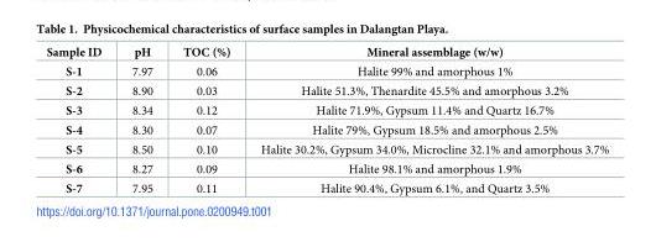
<table><thead><tr><td>Sample ID</td><td>pH</td><td>TOC (%)</td><td>Mineral assemblage (w/w)</td></tr></thead><tbody><tr><td>S-1</td><td>7.97</td><td>0.06</td><td>Halite 99% and amorphous 1%</td></tr><tr><td>S-2</td><td>8.90</td><td>0.03</td><td>Halite 51.3%, Thenardite 45.5% and amorphous 3.2%</td></tr><tr><td>S-3</td><td>8.34</td><td>0.12</td><td>Halite 71.9%, Gypsum 11.4% and Quartz 16.7%</td></tr><tr><td>S-4</td><td>8.30</td><td>0.07</td><td>Halite 79%, Gypsum 18.5% and amorphous 2.5%</td></tr><tr><td>S-5</td><td>8.50</td><td>0.10</td><td>Halite 30.2%, Gypsum 34.0%, Microcline 32.1% and amorphous 3.7%</td></tr><tr><td>S-6</td><td>8.27</td><td>0.09</td><td>Halite 98.1% and amorphous 1.9%</td></tr><tr><td>S-7</td><td>7.95</td><td>0.11</td><td>Halite 90.4%, Gypsum 6.1%, and Quartz 3.5%</td></tr></tbody></table>